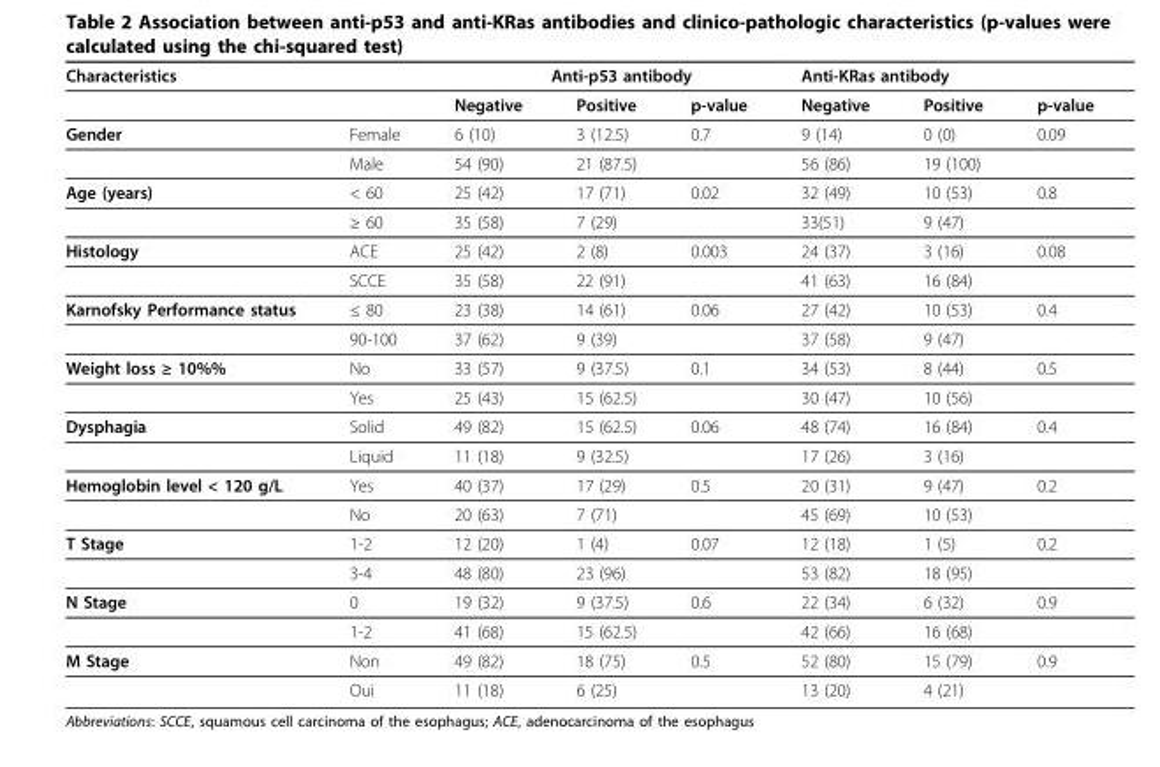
<table><thead><tr><td colspan="2">Characteristics</td><td colspan="3">Anti-p53 antibody</td><td colspan="3">Anti-KRas antibody</td></tr><tr><td></td><td></td><td>Negative</td><td>Positive</td><td>p-value</td><td>Negative</td><td>Positive</td><td>p-value</td></tr></thead><tbody><tr><td rowspan="2">Gender</td><td>Female</td><td>6 (10)</td><td>3 (12.5)</td><td>0.7</td><td>9 (14)</td><td>0 (0)</td><td>0.09</td></tr><tr><td>Male</td><td>54 (90)</td><td>21 (87.5)</td><td></td><td>56 (86)</td><td>19 (100)</td><td></td></tr><tr><td rowspan="2">Age (years)</td><td>&lt; 60</td><td>25 (42)</td><td>17 (71)</td><td>0.02</td><td>32 (49)</td><td>10 (53)</td><td>0.8</td></tr><tr><td>≥ 60</td><td>35 (58)</td><td>7 (29)</td><td></td><td>33(51)</td><td>9 (47)</td><td></td></tr><tr><td rowspan="2">Histology</td><td>ACE</td><td>25 (42)</td><td>2 (8)</td><td>0.003</td><td>24 (37)</td><td>3 (16)</td><td>0.08</td></tr><tr><td>SCCE</td><td>35 (58)</td><td>22 (91)</td><td></td><td>41 (63)</td><td>16 (84)</td><td></td></tr><tr><td rowspan="2">Karnofsky Performance status</td><td>≤ 80</td><td>23 (38)</td><td>14 (61)</td><td>0.06</td><td>27 (42)</td><td>10 (53)</td><td>0.4</td></tr><tr><td>90-100</td><td>37 (62)</td><td>9 (39)</td><td></td><td>37 (58)</td><td>9 (47)</td><td></td></tr><tr><td rowspan="2">Weight loss ≥ 10%%</td><td>No</td><td>33 (57)</td><td>9 (37.5)</td><td>0.1</td><td>34 (53)</td><td>8 (44)</td><td>0.5</td></tr><tr><td>Yes</td><td>25 (43)</td><td>15 (62.5)</td><td></td><td>30 (47)</td><td>10 (56)</td><td></td></tr><tr><td rowspan="2">Dysphagia</td><td>Solid</td><td>49 (82)</td><td>15 (62.5)</td><td>0.06</td><td>48 (74)</td><td>16 (84)</td><td>0.4</td></tr><tr><td>Liquid</td><td>11 (18)</td><td>9 (32.5)</td><td></td><td>17 (26)</td><td>3 (16)</td><td></td></tr><tr><td rowspan="2">Hemoglobin level &lt; 120 g/L</td><td>Yes</td><td>40 (37)</td><td>17 (29)</td><td>0.5</td><td>20 (31)</td><td>9 (47)</td><td>0.2</td></tr><tr><td>No</td><td>20 (63)</td><td>7 (71)</td><td></td><td>45 (69)</td><td>10 (53)</td><td></td></tr><tr><td rowspan="2">T Stage</td><td>1-2</td><td>12 (20)</td><td>1 (4)</td><td>0.07</td><td>12 (18)</td><td>1 (5)</td><td>0.2</td></tr><tr><td>3-4</td><td>48 (80)</td><td>23 (96)</td><td></td><td>53 (82)</td><td>18 (95)</td><td></td></tr><tr><td rowspan="2">N Stage</td><td>0</td><td>19 (32)</td><td>9 (37.5)</td><td>0.6</td><td>22 (34)</td><td>6 (32)</td><td>0.9</td></tr><tr><td>1-2</td><td>41 (68)</td><td>15 (62.5)</td><td></td><td>42 (66)</td><td>16 (68)</td><td></td></tr><tr><td rowspan="2">M Stage</td><td>Non</td><td>49 (82)</td><td>18 (75)</td><td>0.5</td><td>52 (80)</td><td>15 (79)</td><td>0.9</td></tr><tr><td>Oui</td><td>11 (18)</td><td>6 (25)</td><td></td><td>13 (20)</td><td>4 (21)</td><td></td></tr></tbody></table>